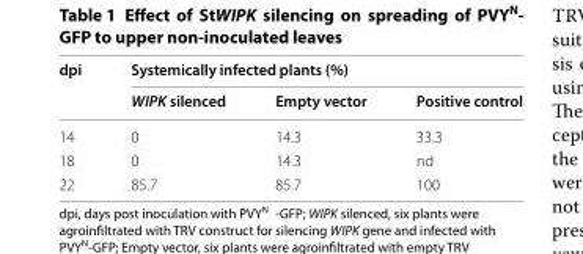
<table><thead><tr><td rowspan="2">dpi</td><td colspan="3">Systemically infected plants (%)</td></tr><tr><td>WIPK silenced</td><td>Empty vector</td><td>Positive control</td></tr></thead><tbody><tr><td>14</td><td>0</td><td>14.3</td><td>33.3</td></tr><tr><td>18</td><td>0</td><td>14.3</td><td>nd</td></tr><tr><td>22</td><td>85.7</td><td>85.7</td><td>100</td></tr></tbody></table>